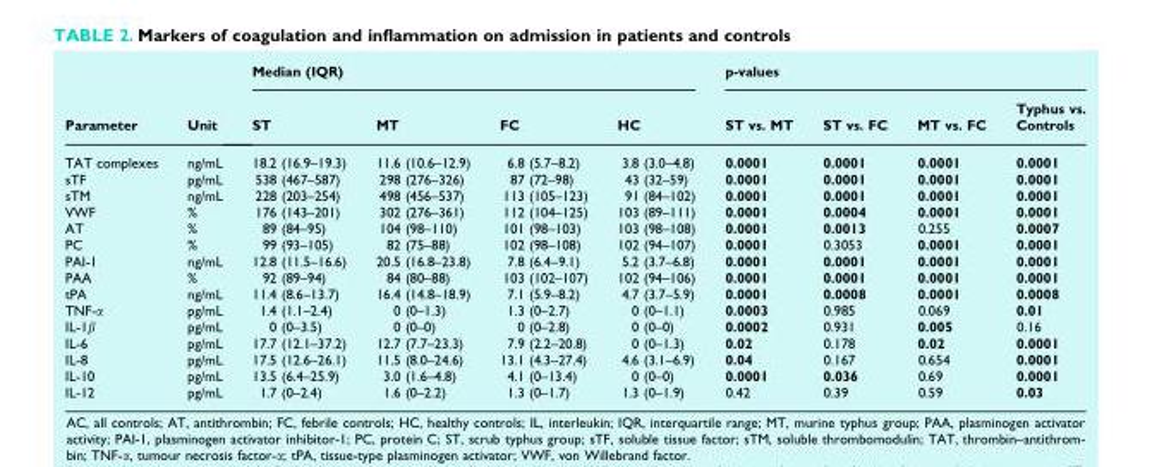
<table><thead><tr><td rowspan="2">Parameter</td><td rowspan="2">Unit</td><td colspan="4">Median (IQR)</td><td colspan="4">p-values</td></tr><tr><td>ST</td><td>MT</td><td>FC</td><td>HC</td><td>ST vs. MT</td><td>ST vs. FC</td><td>MT vs. FC</td><td>Typhus vs. Controls</td></tr></thead><tbody><tr><td>TAT complexes</td><td>ng/mL</td><td>18.2 (16.9–19.3)</td><td>11.6 (10.6–12.9)</td><td>6.8 (5.7–8.2)</td><td>3.8 (3.0–4.8)</td><td>0.0001</td><td>0.0001</td><td>0.0001</td><td>0.0001</td></tr><tr><td>sTF</td><td>pg/mL</td><td>538 (467–587)</td><td>298 (276–326)</td><td>87 (72–98)</td><td>43 (32–59)</td><td>0.0001</td><td>0.0001</td><td>0.0001</td><td>0.0001</td></tr><tr><td>sTM</td><td>ng/mL</td><td>228 (203–254)</td><td>498 (456–537)</td><td>113 (105–123)</td><td>91 (84–102)</td><td>0.0001</td><td>0.0001</td><td>0.0001</td><td>0.0001</td></tr><tr><td>VWF</td><td>%</td><td>176 (143–201)</td><td>302 (276–361)</td><td>112 (104–125)</td><td>103 (89–111)</td><td>0.0001</td><td>0.0004</td><td>0.0001</td><td>0.0001</td></tr><tr><td>AT</td><td>%</td><td>89 (84–95)</td><td>104 (98–110)</td><td>101 (98–103)</td><td>103 (98–108)</td><td>0.0001</td><td>0.0013</td><td>0.255</td><td>0.0007</td></tr><tr><td>PC</td><td>%</td><td>99 (93–105)</td><td>82 (75–88)</td><td>102 (98–108)</td><td>102 (94–107)</td><td>0.0001</td><td>0.3053</td><td>0.0001</td><td>0.0001</td></tr><tr><td>PAI-1</td><td>ng/mL</td><td>12.8 (11.5–16.6)</td><td>20.5 (16.8–23.8)</td><td>7.8 (6.4–9.1)</td><td>5.2 (3.7–6.8)</td><td>0.0001</td><td>0.0001</td><td>0.0001</td><td>0.0001</td></tr><tr><td>PAA</td><td>%</td><td>92 (89–94)</td><td>84 (80–88)</td><td>103 (102–107)</td><td>102 (94–106)</td><td>0.0001</td><td>0.0001</td><td>0.0001</td><td>0.0001</td></tr><tr><td>tPA</td><td>ng/mL</td><td>11.4 (8.6–13.7)</td><td>16.4 (14.8–18.9)</td><td>7.1 (5.9–8.2)</td><td>4.7 (3.7–5.9)</td><td>0.0001</td><td>0.0008</td><td>0.0001</td><td>0.0008</td></tr><tr><td>TNF-α</td><td>pg/mL</td><td>1.4 (1.1–2.4)</td><td>0 (0–1.3)</td><td>1.3 (0–2.7)</td><td>0 (0–1.1)</td><td>0.0003</td><td>0.985</td><td>0.069</td><td>0.01</td></tr><tr><td>IL-1β</td><td>pg/mL</td><td>0 (0–3.5)</td><td>0 (0–0)</td><td>0 (0–2.8)</td><td>0 (0–0)</td><td>0.0002</td><td>0.931</td><td>0.005</td><td>0.16</td></tr><tr><td>IL-6</td><td>pg/mL</td><td>17.7 (12.1–37.2)</td><td>12.7 (7.7–23.3)</td><td>7.9 (2.2–20.8)</td><td>0 (0–1.3)</td><td>0.02</td><td>0.178</td><td>0.02</td><td>0.0001</td></tr><tr><td>IL-8</td><td>pg/mL</td><td>17.5 (12.6–26.1)</td><td>11.5 (8.0–24.6)</td><td>13.1 (4.3–27.4)</td><td>4.6 (3.1–6.9)</td><td>0.04</td><td>0.167</td><td>0.654</td><td>0.0001</td></tr><tr><td>IL-10</td><td>pg/mL</td><td>13.5 (6.4–25.9)</td><td>3.0 (1.6–4.8)</td><td>4.1 (0–13.4)</td><td>0 (0–0)</td><td>0.0001</td><td>0.036</td><td>0.69</td><td>0.0001</td></tr><tr><td>IL-12</td><td>pg/mL</td><td>1.7 (0–2.4)</td><td>1.6 (0–2.2)</td><td>1.3 (0–1.7)</td><td>1.3 (0–1.9)</td><td>0.42</td><td>0.39</td><td>0.59</td><td>0.03</td></tr></tbody></table>